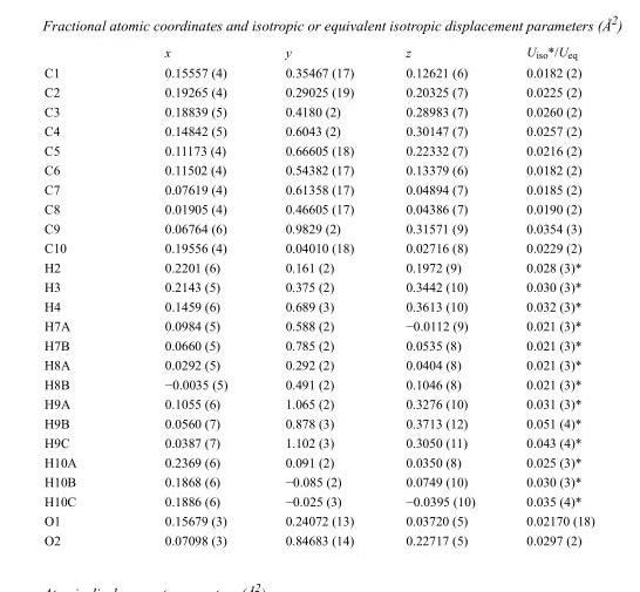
<table><thead><tr><td></td><td>x</td><td>y</td><td>z</td><td>U<sub>iso</sub>*/U<sub>eq</sub></td></tr></thead><tbody><tr><td>C1</td><td>0.15557 (4)</td><td>0.35467 (17)</td><td>0.12621 (6)</td><td>0.0182 (2)</td></tr><tr><td>C2</td><td>0.19265 (4)</td><td>0.29025 (19)</td><td>0.20325 (7)</td><td>0.0225 (2)</td></tr><tr><td>C3</td><td>0.18839 (5)</td><td>0.4180 (2)</td><td>0.28983 (7)</td><td>0.0260 (2)</td></tr><tr><td>C4</td><td>0.14842 (5)</td><td>0.6043 (2)</td><td>0.30147 (7)</td><td>0.0257 (2)</td></tr><tr><td>C5</td><td>0.11173 (4)</td><td>0.66605 (18)</td><td>0.22332 (7)</td><td>0.0216 (2)</td></tr><tr><td>C6</td><td>0.11502 (4)</td><td>0.54382 (17)</td><td>0.13379 (6)</td><td>0.0182 (2)</td></tr><tr><td>C7</td><td>0.07619 (4)</td><td>0.61358 (17)</td><td>0.04894 (7)</td><td>0.0185 (2)</td></tr><tr><td>C8</td><td>0.01905 (4)</td><td>0.46605 (17)</td><td>0.04386 (7)</td><td>0.0190 (2)</td></tr><tr><td>C9</td><td>0.06764 (6)</td><td>0.9829 (2)</td><td>0.31571 (9)</td><td>0.0354 (3)</td></tr><tr><td>C10</td><td>0.19556 (4)</td><td>0.04010 (18)</td><td>0.02716 (8)</td><td>0.0229 (2)</td></tr><tr><td>H2</td><td>0.2201 (6)</td><td>0.161 (2)</td><td>0.1972 (9)</td><td>0.028 (3)*</td></tr><tr><td>H3</td><td>0.2143 (5)</td><td>0.375 (2)</td><td>0.3442 (10)</td><td>0.030 (3)*</td></tr><tr><td>H4</td><td>0.1459 (6)</td><td>0.689 (3)</td><td>0.3613 (10)</td><td>0.032 (3)*</td></tr><tr><td>H7A</td><td>0.0984 (5)</td><td>0.588 (2)</td><td>−0.0112 (9)</td><td>0.021 (3)*</td></tr><tr><td>H7B</td><td>0.0660 (5)</td><td>0.785 (2)</td><td>0.0535 (8)</td><td>0.021 (3)*</td></tr><tr><td>H8A</td><td>0.0292 (5)</td><td>0.292 (2)</td><td>0.0404 (8)</td><td>0.021 (3)*</td></tr><tr><td>H8B</td><td>−0.0035 (5)</td><td>0.491 (2)</td><td>0.1046 (8)</td><td>0.021 (3)*</td></tr><tr><td>H9A</td><td>0.1055 (6)</td><td>1.065 (2)</td><td>0.3276 (10)</td><td>0.031 (3)*</td></tr><tr><td>H9B</td><td>0.0560 (7)</td><td>0.878 (3)</td><td>0.3713 (12)</td><td>0.051 (4)*</td></tr><tr><td>H9C</td><td>0.0387 (7)</td><td>1.102 (3)</td><td>0.3050 (11)</td><td>0.043 (4)*</td></tr><tr><td>H10A</td><td>0.2369 (6)</td><td>0.091 (2)</td><td>0.0350 (8)</td><td>0.025 (3)*</td></tr><tr><td>H10B</td><td>0.1868 (6)</td><td>−0.085 (2)</td><td>0.0749 (10)</td><td>0.030 (3)*</td></tr><tr><td>H10C</td><td>0.1886 (6)</td><td>−0.025 (3)</td><td>−0.0395 (10)</td><td>0.035 (4)*</td></tr><tr><td>O1</td><td>0.15679 (3)</td><td>0.24072 (13)</td><td>0.03720 (5)</td><td>0.02170 (18)</td></tr><tr><td>O2</td><td>0.07098 (3)</td><td>0.84683 (14)</td><td>0.22717 (5)</td><td>0.0297 (2)</td></tr></tbody></table>